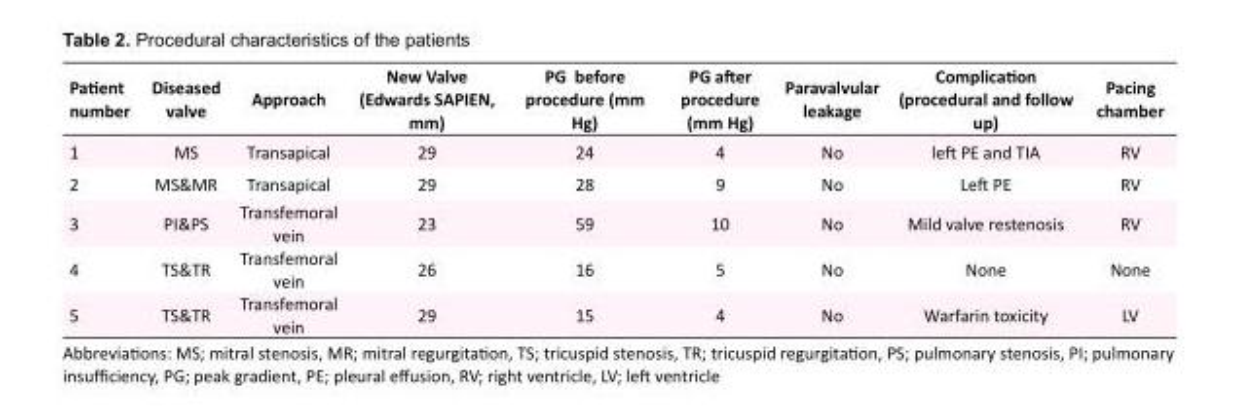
<table><tbody><tr><td>Patient number</td><td>Diseased valve</td><td>Approach</td><td>New Valve (Edwards SAPIEN, mm)</td><td>PG before procedure (mm Hg)</td><td>PG after procedure (mm Hg)</td><td>Paravalvular leakage</td><td>Complication (procedural and follow up)</td><td>Pacing chamber</td></tr><tr><td>1</td><td>MS</td><td>Transapical</td><td>29</td><td>24</td><td>4</td><td>No</td><td>left PE and TIA</td><td>RV</td></tr><tr><td>2</td><td>MS&amp;MR</td><td>Transapical</td><td>29</td><td>28</td><td>9</td><td>No</td><td>Left PE</td><td>RV</td></tr><tr><td>3</td><td>PI&amp;PS</td><td>Transfemoral vein</td><td>23</td><td>59</td><td>10</td><td>No</td><td>Mild valve restenosis</td><td>RV</td></tr><tr><td>4</td><td>TS&amp;TR</td><td>Transfemoral vein</td><td>26</td><td>16</td><td>5</td><td>No</td><td>None</td><td>None</td></tr><tr><td>5</td><td>TS&amp;TR</td><td>Transfemoral vein</td><td>29</td><td>15</td><td>4</td><td>No</td><td>Warfarin toxicity</td><td>LV</td></tr></tbody></table>